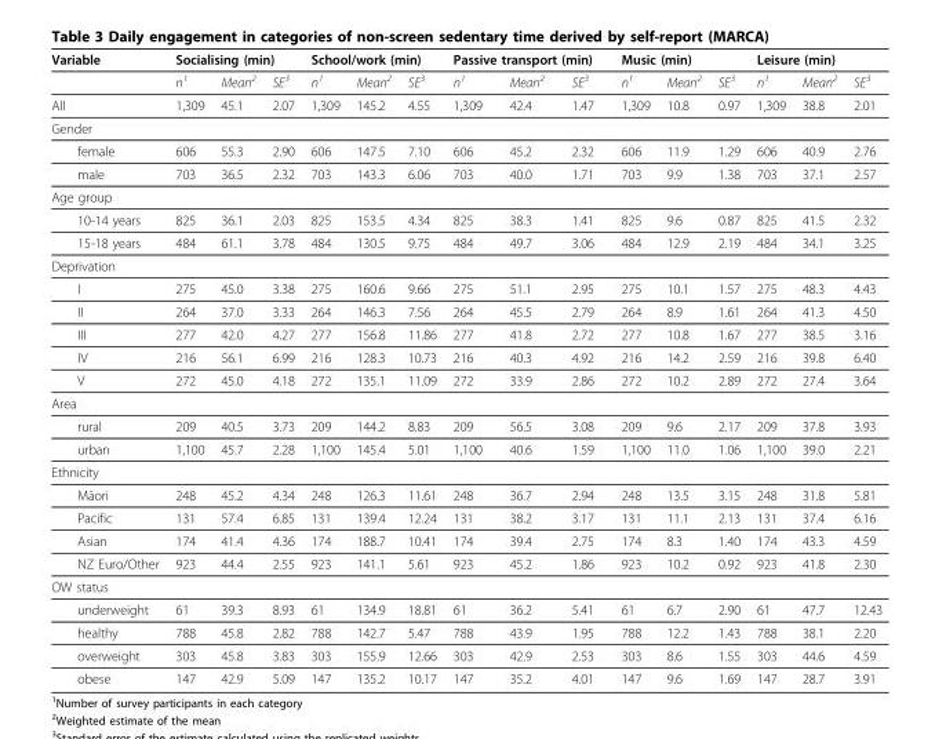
<table><thead><tr><td rowspan="2">Variable</td><td colspan="3">Socialising (min)</td><td colspan="3">School/work (min)</td><td colspan="3">Passive transport (min)</td><td colspan="3">Music (min)</td><td colspan="3">Leisure (min)</td></tr><tr><td>n<sup>1</sup></td><td>Mean<sup>2</sup></td><td>SE<sup>3</sup></td><td>n<sup>1</sup></td><td>Mean<sup>2</sup></td><td>SE<sup>3</sup></td><td>n<sup>1</sup></td><td>Mean<sup>2</sup></td><td>SE<sup>3</sup></td><td>n<sup>1</sup></td><td>Mean<sup>2</sup></td><td>SE<sup>3</sup></td><td>n<sup>1</sup></td><td>Mean<sup>2</sup></td><td>SE<sup>3</sup></td></tr></thead><tbody><tr><td>All</td><td>1,309</td><td>45.1</td><td>2.07</td><td>1,309</td><td>145.2</td><td>4.55</td><td>1,309</td><td>42.4</td><td>1.47</td><td>1,309</td><td>10.8</td><td>0.97</td><td>1,309</td><td>38.8</td><td>2.01</td></tr><tr><td colspan="16">Gender</td></tr><tr><td>female</td><td>606</td><td>55.3</td><td>2.90</td><td>606</td><td>147.5</td><td>7.10</td><td>606</td><td>45.2</td><td>2.32</td><td>606</td><td>11.9</td><td>1.29</td><td>606</td><td>40.9</td><td>2.76</td></tr><tr><td>male</td><td>703</td><td>36.5</td><td>2.32</td><td>703</td><td>143.3</td><td>6.06</td><td>703</td><td>40.0</td><td>1.71</td><td>703</td><td>9.9</td><td>1.38</td><td>703</td><td>37.1</td><td>2.57</td></tr><tr><td colspan="16">Age group</td></tr><tr><td>10-14 years</td><td>825</td><td>36.1</td><td>2.03</td><td>825</td><td>153.5</td><td>4.34</td><td>825</td><td>38.3</td><td>1.41</td><td>825</td><td>9.6</td><td>0.87</td><td>825</td><td>41.5</td><td>2.32</td></tr><tr><td>15-18 years</td><td>484</td><td>61.1</td><td>3.78</td><td>484</td><td>130.5</td><td>9.75</td><td>484</td><td>49.7</td><td>3.06</td><td>484</td><td>12.9</td><td>2.19</td><td>484</td><td>34.1</td><td>3.25</td></tr><tr><td colspan="16">Deprivation</td></tr><tr><td>I</td><td>275</td><td>45.0</td><td>3.38</td><td>275</td><td>160.6</td><td>9.66</td><td>275</td><td>51.1</td><td>2.95</td><td>275</td><td>10.1</td><td>1.57</td><td>275</td><td>48.3</td><td>4.43</td></tr><tr><td>II</td><td>264</td><td>37.0</td><td>3.33</td><td>264</td><td>146.3</td><td>7.56</td><td>264</td><td>45.5</td><td>2.79</td><td>264</td><td>8.9</td><td>1.61</td><td>264</td><td>41.3</td><td>4.50</td></tr><tr><td>III</td><td>277</td><td>42.0</td><td>4.27</td><td>277</td><td>156.8</td><td>11.86</td><td>277</td><td>41.8</td><td>2.72</td><td>277</td><td>10.8</td><td>1.67</td><td>277</td><td>38.5</td><td>3.16</td></tr><tr><td>IV</td><td>216</td><td>56.1</td><td>6.99</td><td>216</td><td>128.3</td><td>10.73</td><td>216</td><td>40.3</td><td>4.92</td><td>216</td><td>14.2</td><td>2.59</td><td>216</td><td>39.8</td><td>6.40</td></tr><tr><td>V</td><td>272</td><td>45.0</td><td>4.18</td><td>272</td><td>135.1</td><td>11.09</td><td>272</td><td>33.9</td><td>2.86</td><td>272</td><td>10.2</td><td>2.89</td><td>272</td><td>27.4</td><td>3.64</td></tr><tr><td colspan="16">Area</td></tr><tr><td>rural</td><td>209</td><td>40.5</td><td>3.73</td><td>209</td><td>144.2</td><td>8.83</td><td>209</td><td>56.5</td><td>3.08</td><td>209</td><td>9.6</td><td>2.17</td><td>209</td><td>37.8</td><td>3.93</td></tr><tr><td>urban</td><td>1,100</td><td>45.7</td><td>2.28</td><td>1,100</td><td>145.4</td><td>5.01</td><td>1,100</td><td>40.6</td><td>1.59</td><td>1,100</td><td>11.0</td><td>1.06</td><td>1,100</td><td>39.0</td><td>2.21</td></tr><tr><td colspan="16">Ethnicity</td></tr><tr><td>Māori</td><td>248</td><td>45.2</td><td>4.34</td><td>248</td><td>126.3</td><td>11.61</td><td>248</td><td>36.7</td><td>2.94</td><td>248</td><td>13.5</td><td>3.15</td><td>248</td><td>31.8</td><td>5.81</td></tr><tr><td>Pacific</td><td>131</td><td>57.4</td><td>6.85</td><td>131</td><td>139.4</td><td>12.24</td><td>131</td><td>38.2</td><td>3.17</td><td>131</td><td>11.1</td><td>2.13</td><td>131</td><td>37.4</td><td>6.16</td></tr><tr><td>Asian</td><td>174</td><td>41.4</td><td>4.36</td><td>174</td><td>188.7</td><td>10.41</td><td>174</td><td>39.4</td><td>2.75</td><td>174</td><td>8.3</td><td>1.40</td><td>174</td><td>43.3</td><td>4.59</td></tr><tr><td>NZ Euro/Other</td><td>923</td><td>44.4</td><td>2.55</td><td>923</td><td>141.1</td><td>5.61</td><td>923</td><td>45.2</td><td>1.86</td><td>923</td><td>10.2</td><td>0.92</td><td>923</td><td>41.8</td><td>2.30</td></tr><tr><td colspan="16">OW status</td></tr><tr><td>underweight</td><td>61</td><td>39.3</td><td>8.93</td><td>61</td><td>134.9</td><td>18.81</td><td>61</td><td>36.2</td><td>5.41</td><td>61</td><td>6.7</td><td>2.90</td><td>61</td><td>47.7</td><td>12.43</td></tr><tr><td>healthy</td><td>788</td><td>45.8</td><td>2.82</td><td>788</td><td>142.7</td><td>5.47</td><td>788</td><td>43.9</td><td>1.95</td><td>788</td><td>12.2</td><td>1.43</td><td>788</td><td>38.1</td><td>2.20</td></tr><tr><td>overweight</td><td>303</td><td>45.8</td><td>3.83</td><td>303</td><td>155.9</td><td>12.66</td><td>303</td><td>42.9</td><td>2.53</td><td>303</td><td>8.6</td><td>1.55</td><td>303</td><td>44.6</td><td>4.59</td></tr><tr><td>obese</td><td>147</td><td>42.9</td><td>5.09</td><td>147</td><td>135.2</td><td>10.17</td><td>147</td><td>35.2</td><td>4.01</td><td>147</td><td>9.6</td><td>1.69</td><td>147</td><td>28.7</td><td>3.91</td></tr></tbody></table>